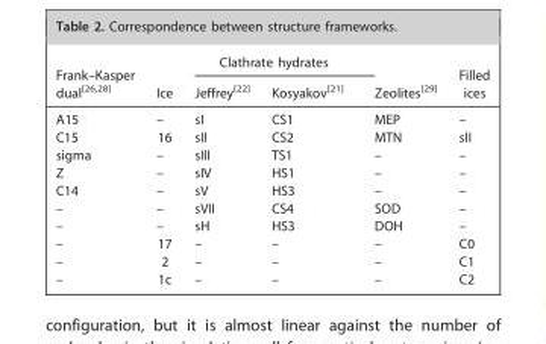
<table><thead><tr><td rowspan="2">Frank–Kasper dual[26,28]</td><td rowspan="2">Ice</td><td colspan="2">Clathrate hydrates</td><td rowspan="2">Zeolites[29]</td><td rowspan="2">Filled ices</td></tr><tr><td>Jeffrey[22]</td><td>Kosyakov[21]</td></tr></thead><tbody><tr><td>A15</td><td>–</td><td>sI</td><td>CS1</td><td>MEP</td><td>–</td></tr><tr><td>C15</td><td>16</td><td>sII</td><td>CS2</td><td>MTN</td><td>sII</td></tr><tr><td>sigma</td><td>–</td><td>sIII</td><td>TS1</td><td>–</td><td>–</td></tr><tr><td>Z</td><td>–</td><td>sIV</td><td>HS1</td><td>–</td><td>–</td></tr><tr><td>C14</td><td>–</td><td>sV</td><td>HS3</td><td>–</td><td>–</td></tr><tr><td>–</td><td>–</td><td>sVII</td><td>CS4</td><td>SOD</td><td>–</td></tr><tr><td>–</td><td>–</td><td>sH</td><td>HS3</td><td>DOH</td><td>–</td></tr><tr><td>–</td><td>17</td><td>–</td><td>–</td><td>–</td><td>C0</td></tr><tr><td>–</td><td>2</td><td>–</td><td>–</td><td>–</td><td>C1</td></tr><tr><td>–</td><td>1c</td><td>–</td><td>–</td><td>–</td><td>C2</td></tr></tbody></table>